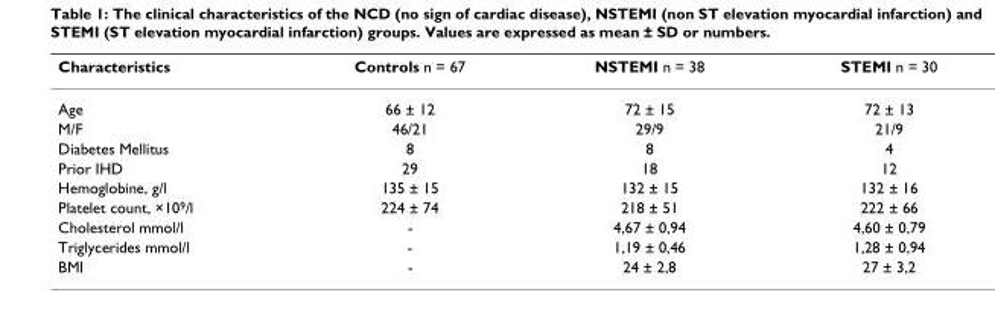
<table><thead><tr><td>Characteristics</td><td>Controls n = 67</td><td>NSTEMI n = 38</td><td>STEMI n = 30</td></tr></thead><tbody><tr><td>Age</td><td>66 ± 12</td><td>72 ± 15</td><td>72 ± 13</td></tr><tr><td>M/F</td><td>46/21</td><td>29/9</td><td>21/9</td></tr><tr><td>Diabetes Mellitus</td><td>8</td><td>8</td><td>4</td></tr><tr><td>Prior IHD</td><td>29</td><td>18</td><td>12</td></tr><tr><td>Hemoglobine, g/l</td><td>135 ± 15</td><td>132 ± 15</td><td>132 ± 16</td></tr><tr><td>Platelet count, ×10<sup>9</sup>/l</td><td>224 ± 74</td><td>218 ± 51</td><td>222 ± 66</td></tr><tr><td>Cholesterol mmol/l</td><td>-</td><td>4,67 ± 0,94</td><td>4,60 ± 0,79</td></tr><tr><td>Triglycerides mmol/l</td><td>-</td><td>1,19 ± 0,46</td><td>1,28 ± 0,94</td></tr><tr><td>BMI</td><td>-</td><td>24 ± 2,8</td><td>27 ± 3,2</td></tr></tbody></table>